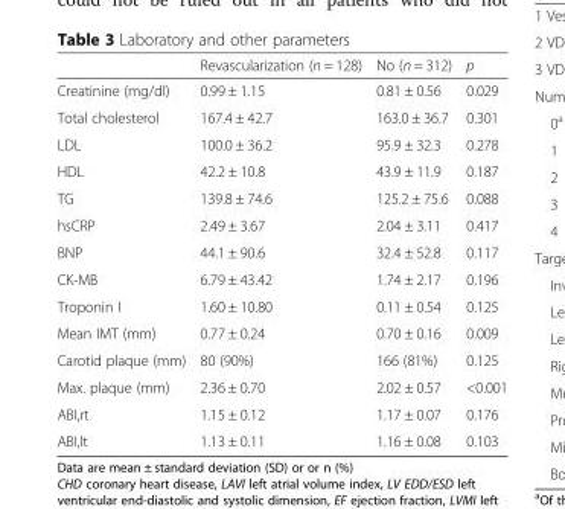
<table><thead><tr><td></td><td>Revascularization (n = 128)</td><td>No (n = 312)</td><td>p</td></tr></thead><tbody><tr><td>Creatinine (mg/dl)</td><td>0.99 ± 1.15</td><td>0.81 ± 0.56</td><td>0.029</td></tr><tr><td>Total cholesterol</td><td>167.4 ± 42.7</td><td>163.0 ± 36.7</td><td>0.301</td></tr><tr><td>LDL</td><td>100.0 ± 36.2</td><td>95.9 ± 32.3</td><td>0.278</td></tr><tr><td>HDL</td><td>42.2 ± 10.8</td><td>43.9 ± 11.9</td><td>0.187</td></tr><tr><td>TG</td><td>139.8 ± 74.6</td><td>125.2 ± 75.6</td><td>0.088</td></tr><tr><td>hsCRP</td><td>2.49 ± 3.67</td><td>2.04 ± 3.11</td><td>0.417</td></tr><tr><td>BNP</td><td>44.1 ± 90.6</td><td>32.4 ± 52.8</td><td>0.117</td></tr><tr><td>CK-MB</td><td>6.79 ± 43.42</td><td>1.74 ± 2.17</td><td>0.196</td></tr><tr><td>Troponin I</td><td>1.60 ± 10.80</td><td>0.11 ± 0.54</td><td>0.125</td></tr><tr><td>Mean IMT (mm)</td><td>0.77 ± 0.24</td><td>0.70 ± 0.16</td><td>0.009</td></tr><tr><td>Carotid plaque (mm)</td><td>80 (90%)</td><td>166 (81%)</td><td>0.125</td></tr><tr><td>Max. plaque (mm)</td><td>2.36 ± 0.70</td><td>2.02 ± 0.57</td><td>&lt;0.001</td></tr><tr><td>ABI,rt</td><td>1.15 ± 0.12</td><td>1.17 ± 0.07</td><td>0.176</td></tr><tr><td>ABI,lt</td><td>1.13 ± 0.11</td><td>1.16 ± 0.08</td><td>0.103</td></tr></tbody></table>